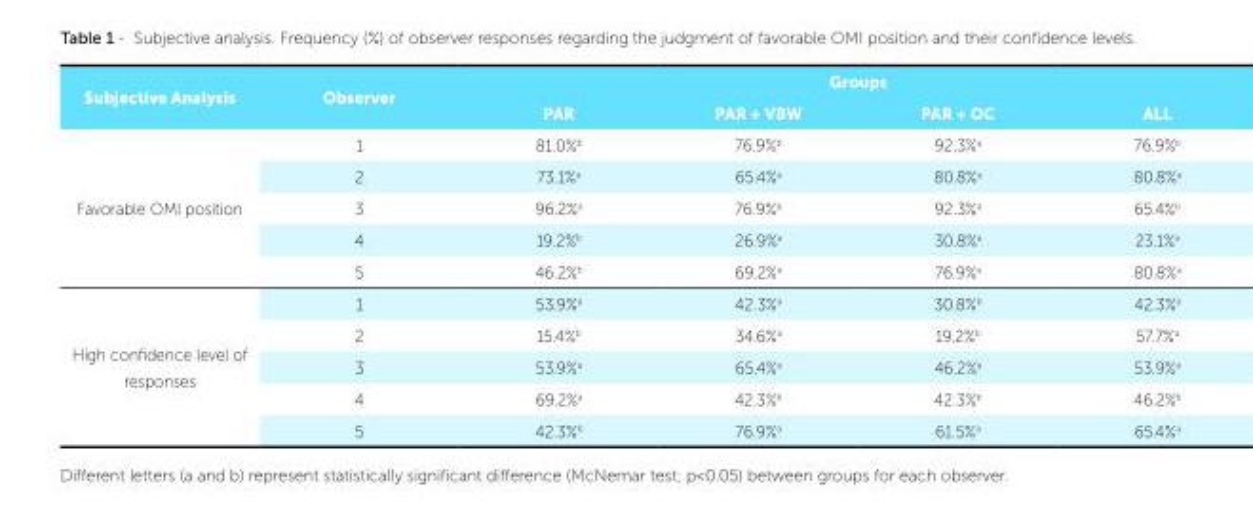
<table><tbody><tr><td rowspan="2">Subjective Analysis</td><td rowspan="2">Observer</td><td colspan="4">Groups</td></tr><tr><td>PAR</td><td>PAR + VBW</td><td>PAR + OC</td><td>ALL</td></tr><tr><td rowspan="5">Favorable OMI position</td><td>1</td><td>81.0%<sup>b</sup></td><td>76.9%<sup>b</sup></td><td>92.3%<sup>a</sup></td><td>76.9%<sup>b</sup></td></tr><tr><td>2</td><td>73.1%<sup>a</sup></td><td>65.4%<sup>a</sup></td><td>80.8%<sup>a</sup></td><td>80.8%<sup>a</sup></td></tr><tr><td>3</td><td>96.2%<sup>a</sup></td><td>76.9%<sup>b</sup></td><td>92.3%<sup>a</sup></td><td>65.4%<sup>b</sup></td></tr><tr><td>4</td><td>19.2%<sup>b</sup></td><td>26.9%<sup>a</sup></td><td>30.8%<sup>a</sup></td><td>23.1%<sup>a</sup></td></tr><tr><td>5</td><td>46.2%<sup>b</sup></td><td>69.2%<sup>a</sup></td><td>76.9%<sup>a</sup></td><td>80.8%<sup>a</sup></td></tr><tr><td rowspan="5">High confidence level of responses</td><td>1</td><td>53.9%<sup>a</sup></td><td>42.3%<sup>a</sup></td><td>30.8%<sup>b</sup></td><td>42.3%<sup>a</sup></td></tr><tr><td>2</td><td>15.4%<sup>b</sup></td><td>34.6%<sup>a</sup></td><td>19.2%<sup>b</sup></td><td>57.7%<sup>a</sup></td></tr><tr><td>3</td><td>53.9%<sup>a</sup></td><td>65.4%<sup>a</sup></td><td>46.2%<sup>a</sup></td><td>53.9%<sup>a</sup></td></tr><tr><td>4</td><td>69.2%<sup>a</sup></td><td>42.3%<sup>b</sup></td><td>42.3%<sup>b</sup></td><td>46.2%<sup>b</sup></td></tr><tr><td>5</td><td>42.3%<sup>b</sup></td><td>76.9%<sup>a</sup></td><td>61.5%<sup>a</sup></td><td>65.4%<sup>a</sup></td></tr></tbody></table>